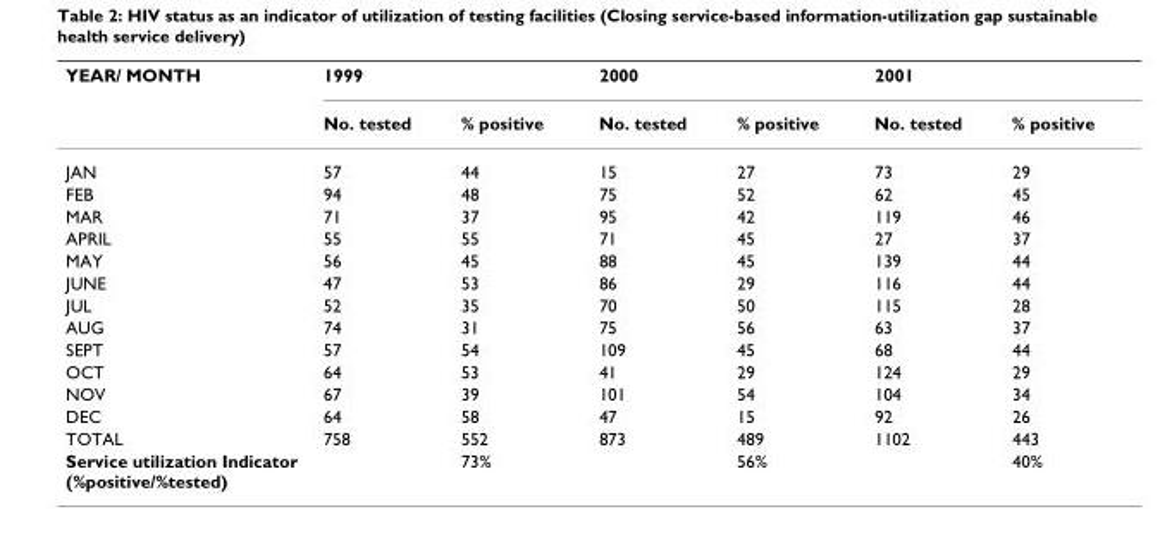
<table><thead><tr><td rowspan="2">YEAR/ MONTH</td><td colspan="2">1999</td><td colspan="2">2000</td><td colspan="2">2001</td></tr><tr><td>No. tested</td><td>% positive</td><td>No. tested</td><td>% positive</td><td>No. tested</td><td>% positive</td></tr></thead><tbody><tr><td>JAN</td><td>57</td><td>44</td><td>15</td><td>27</td><td>73</td><td>29</td></tr><tr><td>FEB</td><td>94</td><td>48</td><td>75</td><td>52</td><td>62</td><td>45</td></tr><tr><td>MAR</td><td>71</td><td>37</td><td>95</td><td>42</td><td>119</td><td>46</td></tr><tr><td>APRIL</td><td>55</td><td>55</td><td>71</td><td>45</td><td>27</td><td>37</td></tr><tr><td>MAY</td><td>56</td><td>45</td><td>88</td><td>45</td><td>139</td><td>44</td></tr><tr><td>JUNE</td><td>47</td><td>53</td><td>86</td><td>29</td><td>116</td><td>44</td></tr><tr><td>JUL</td><td>52</td><td>35</td><td>70</td><td>50</td><td>115</td><td>28</td></tr><tr><td>AUG</td><td>74</td><td>31</td><td>75</td><td>56</td><td>63</td><td>37</td></tr><tr><td>SEPT</td><td>57</td><td>54</td><td>109</td><td>45</td><td>68</td><td>44</td></tr><tr><td>OCT</td><td>64</td><td>53</td><td>41</td><td>29</td><td>124</td><td>29</td></tr><tr><td>NOV</td><td>67</td><td>39</td><td>101</td><td>54</td><td>104</td><td>34</td></tr><tr><td>DEC</td><td>64</td><td>58</td><td>47</td><td>15</td><td>92</td><td>26</td></tr><tr><td>TOTAL</td><td>758</td><td>552</td><td>873</td><td>489</td><td>1102</td><td>443</td></tr><tr><td>Service utilization Indicator (%positive/%tested)</td><td></td><td>73%</td><td></td><td>56%</td><td></td><td>40%</td></tr></tbody></table>